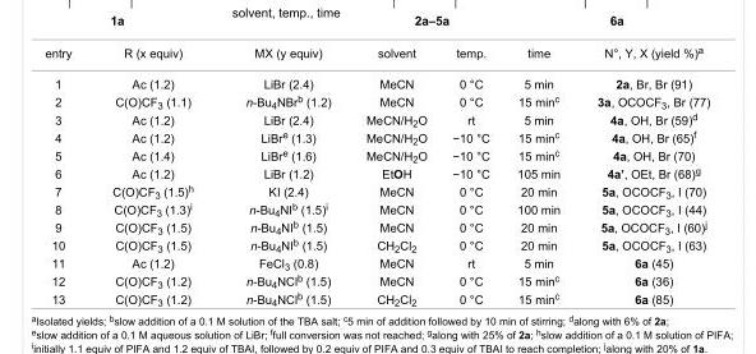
<table><tbody><tr><td>entry</td><td>R (x equiv)</td><td>MX (y equiv)</td><td>solvent</td><td>temp.</td><td>time</td><td>N°, Y, X (yield %)<sup>a</sup></td></tr><tr><td>1</td><td>Ac (1.2)</td><td>LiBr (2.4)</td><td>MeCN</td><td>0 °C</td><td>5 min</td><td>2a, Br, Br (91)</td></tr><tr><td>2</td><td>C(O)CF<sub>3</sub> (1.1)</td><td>n-Bu<sub>4</sub>NBr<sup>b</sup> (1.2)</td><td>MeCN</td><td>0 °C</td><td>15 min<sup>c</sup></td><td>3a, OCOCF<sub>3</sub>, Br (77)</td></tr><tr><td>3</td><td>Ac (1.2)</td><td>LiBr (2.4)</td><td>MeCN/H<sub>2</sub>O</td><td>rt</td><td>5 min</td><td>4a, OH, Br (59)<sup>d</sup></td></tr><tr><td>4</td><td>Ac (1.2)</td><td>LiBr<sup>e</sup> (1.3)</td><td>MeCN/H<sub>2</sub>O</td><td>−10 °C</td><td>15 min<sup>c</sup></td><td>4a, OH, Br (65)<sup>f</sup></td></tr><tr><td>5</td><td>Ac (1.4)</td><td>LiBr<sup>e</sup> (1.6)</td><td>MeCN/H<sub>2</sub>O</td><td>−10 °C</td><td>15 min<sup>c</sup></td><td>4a, OH, Br (70)</td></tr><tr><td>6</td><td>Ac (1.2)</td><td>LiBr (1.2)</td><td>EtOH</td><td>−10 °C</td><td>105 min</td><td>4a’, OEt, Br (68)<sup>g</sup></td></tr><tr><td>7</td><td>C(O)CF<sub>3</sub> (1.5)<sup>h</sup></td><td>KI (2.4)</td><td>MeCN</td><td>0 °C</td><td>20 min</td><td>5a, OCOCF<sub>3</sub>, I (70)</td></tr><tr><td>8</td><td>C(O)CF<sub>3</sub> (1.3)<sup>i</sup></td><td>n-Bu<sub>4</sub>NI<sup>b</sup> (1.5)<sup>i</sup></td><td>MeCN</td><td>0 °C</td><td>100 min</td><td>5a, OCOCF<sub>3</sub>, I (44)</td></tr><tr><td>9</td><td>C(O)CF<sub>3</sub> (1.5)</td><td>n-Bu<sub>4</sub>NI<sup>b</sup> (1.5)</td><td>MeCN</td><td>0 °C</td><td>20 min</td><td>5a, OCOCF<sub>3</sub>, I (60)<sup>j</sup></td></tr><tr><td>10</td><td>C(O)CF<sub>3</sub> (1.5)</td><td>n-Bu<sub>4</sub>NI<sup>b</sup> (1.5)</td><td>CH<sub>2</sub>Cl<sub>2</sub></td><td>0 °C</td><td>20 min</td><td>5a, OCOCF<sub>3</sub>, I (63)</td></tr><tr><td>11</td><td>Ac (1.2)</td><td>FeCl<sub>3</sub> (0.8)</td><td>MeCN</td><td>rt</td><td>5 min</td><td>6a (45)</td></tr><tr><td>12</td><td>C(O)CF<sub>3</sub> (1.2)</td><td>n-Bu<sub>4</sub>NCl<sup>b</sup> (1.5)</td><td>MeCN</td><td>0 °C</td><td>15 min<sup>c</sup></td><td>6a (36)</td></tr><tr><td>13</td><td>C(O)CF<sub>3</sub> (1.2)</td><td>n-Bu<sub>4</sub>NCl<sup>b</sup> (1.5)</td><td>CH<sub>2</sub>Cl<sub>2</sub></td><td>0 °C</td><td>15 min<sup>c</sup></td><td>6a (85)</td></tr></tbody></table>